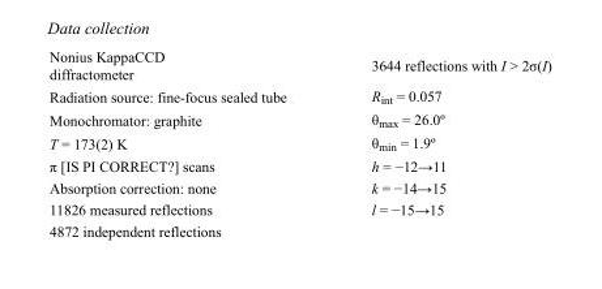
<table><tbody><tr><td>Nonius KappaCCD diffractometer</td><td>3644 reflections with I &gt; 2σ(I)</td></tr><tr><td>Radiation source: fine-focus sealed tube</td><td>R<sub>int</sub> = 0.057</td></tr><tr><td>Monochromator: graphite</td><td>θ<sub>max</sub> = 26.0º</td></tr><tr><td>T = 173(2) K</td><td>θ<sub>min</sub> = 1.9º</td></tr><tr><td>π [IS PI CORRECT?] scans</td><td>h = −12→11</td></tr><tr><td>Absorption correction: none</td><td>k = −14→15</td></tr><tr><td>11826 measured reflections</td><td>l = −15→15</td></tr><tr><td>4872 independent reflections</td><td></td></tr></tbody></table>